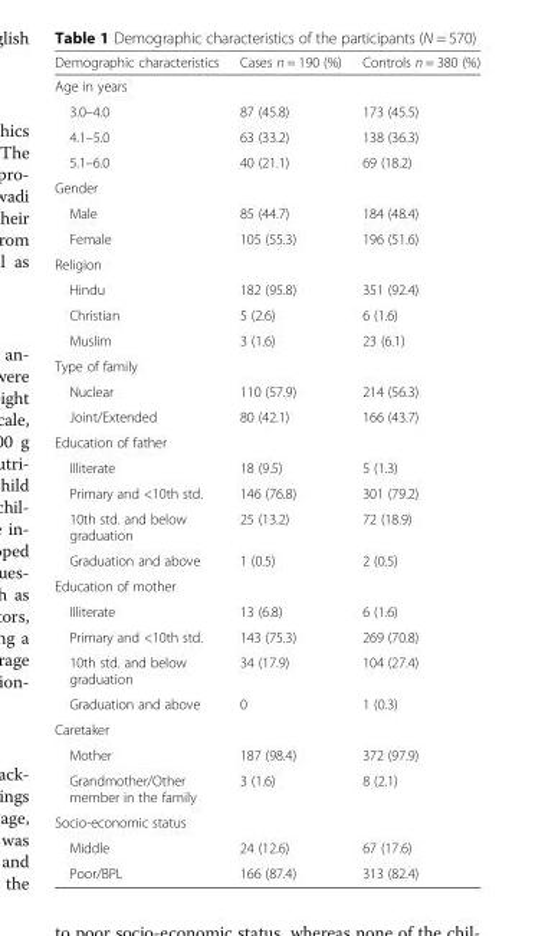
<table><thead><tr><td>Demographic characteristics</td><td>Cases n = 190 (%)</td><td>Controls n = 380 (%)</td></tr></thead><tbody><tr><td colspan="3">Age in years</td></tr><tr><td>3.0–4.0</td><td>87 (45.8)</td><td>173 (45.5)</td></tr><tr><td>4.1–5.0</td><td>63 (33.2)</td><td>138 (36.3)</td></tr><tr><td>5.1–6.0</td><td>40 (21.1)</td><td>69 (18.2)</td></tr><tr><td colspan="3">Gender</td></tr><tr><td>Male</td><td>85 (44.7)</td><td>184 (48.4)</td></tr><tr><td>Female</td><td>105 (55.3)</td><td>196 (51.6)</td></tr><tr><td colspan="3">Religion</td></tr><tr><td>Hindu</td><td>182 (95.8)</td><td>351 (92.4)</td></tr><tr><td>Christian</td><td>5 (2.6)</td><td>6 (1.6)</td></tr><tr><td>Muslim</td><td>3 (1.6)</td><td>23 (6.1)</td></tr><tr><td colspan="3">Type of family</td></tr><tr><td>Nuclear</td><td>110 (57.9)</td><td>214 (56.3)</td></tr><tr><td>Joint/Extended</td><td>80 (42.1)</td><td>166 (43.7)</td></tr><tr><td colspan="3">Education of father</td></tr><tr><td>Illiterate</td><td>18 (9.5)</td><td>5 (1.3)</td></tr><tr><td>Primary and &lt;10th std.</td><td>146 (76.8)</td><td>301 (79.2)</td></tr><tr><td>10th std. and below graduation</td><td>25 (13.2)</td><td>72 (18.9)</td></tr><tr><td>Graduation and above</td><td>1 (0.5)</td><td>2 (0.5)</td></tr><tr><td colspan="3">Education of mother</td></tr><tr><td>Illiterate</td><td>13 (6.8)</td><td>6 (1.6)</td></tr><tr><td>Primary and &lt;10th std.</td><td>143 (75.3)</td><td>269 (70.8)</td></tr><tr><td>10th std. and below graduation</td><td>34 (17.9)</td><td>104 (27.4)</td></tr><tr><td>Graduation and above</td><td>0</td><td>1 (0.3)</td></tr><tr><td colspan="3">Caretaker</td></tr><tr><td>Mother</td><td>187 (98.4)</td><td>372 (97.9)</td></tr><tr><td>Grandmother/Other member in the family</td><td>3 (1.6)</td><td>8 (2.1)</td></tr><tr><td colspan="3">Socio-economic status</td></tr><tr><td>Middle</td><td>24 (12.6)</td><td>67 (17.6)</td></tr><tr><td>Poor/BPL</td><td>166 (87.4)</td><td>313 (82.4)</td></tr></tbody></table>